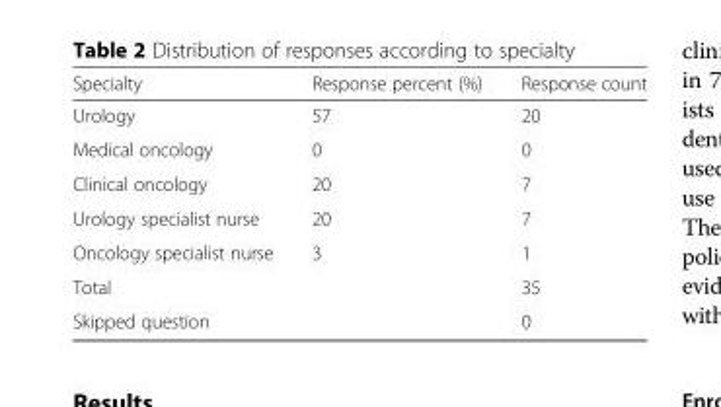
<table><thead><tr><td>Specialty</td><td>Response percent (%)</td><td>Response count</td></tr></thead><tbody><tr><td>Urology</td><td>57</td><td>20</td></tr><tr><td>Medical oncology</td><td>0</td><td>0</td></tr><tr><td>Clinical oncology</td><td>20</td><td>7</td></tr><tr><td>Urology specialist nurse</td><td>20</td><td>7</td></tr><tr><td>Oncology specialist nurse</td><td>3</td><td>1</td></tr><tr><td colspan="2">Total</td><td>35</td></tr><tr><td colspan="2">Skipped question</td><td>0</td></tr></tbody></table>